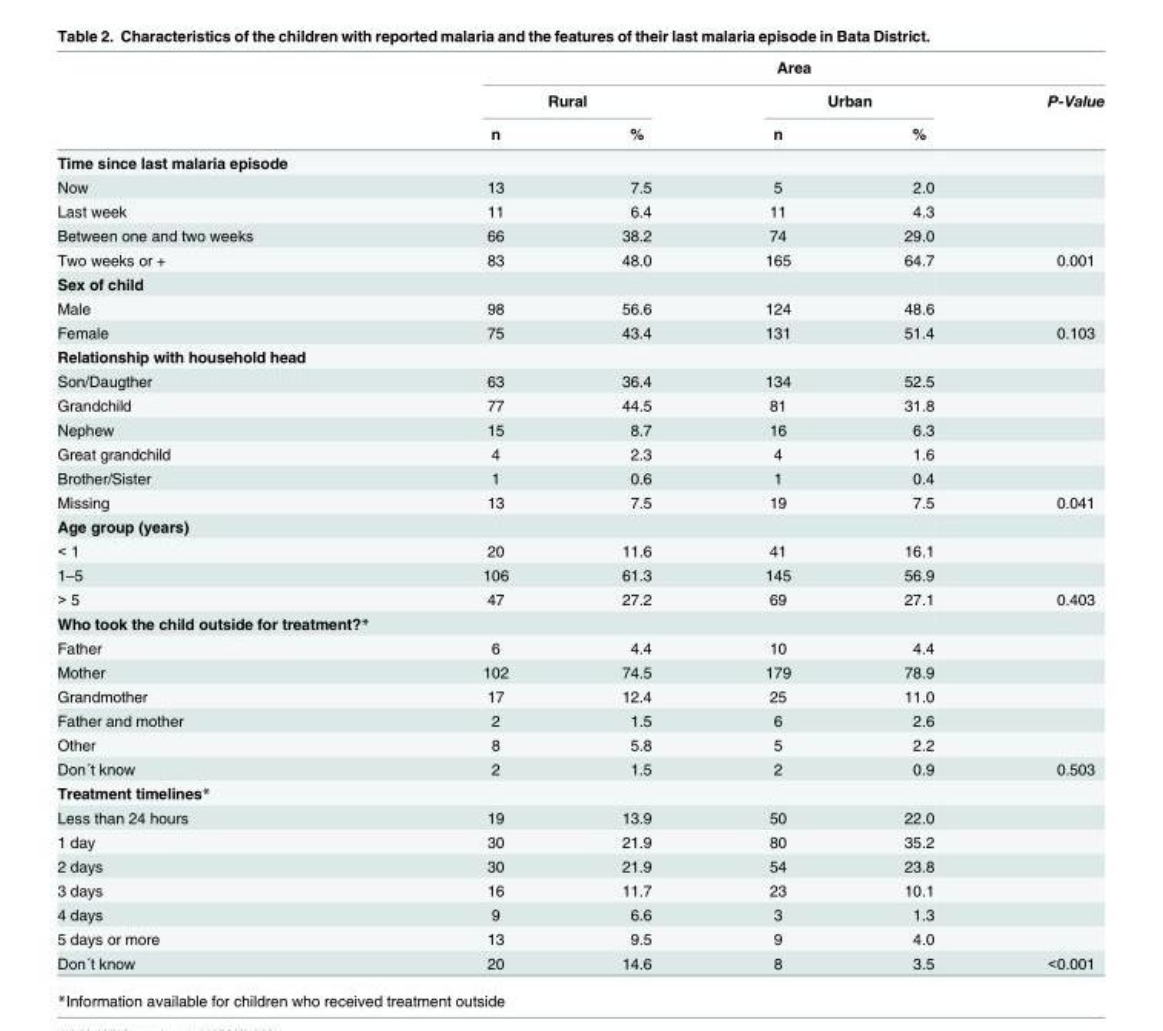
<table><thead><tr><td rowspan="3"></td><td colspan="5">Area</td></tr><tr><td colspan="2">Rural</td><td colspan="2">Urban</td><td rowspan="2">P-Value</td></tr><tr><td>n</td><td>%</td><td>n</td><td>%</td></tr></thead><tbody><tr><td colspan="6">Time since last malaria episode</td></tr><tr><td>Now</td><td>13</td><td>7.5</td><td>5</td><td>2.0</td><td></td></tr><tr><td>Last week</td><td>11</td><td>6.4</td><td>11</td><td>4.3</td><td></td></tr><tr><td>Between one and two weeks</td><td>66</td><td>38.2</td><td>74</td><td>29.0</td><td></td></tr><tr><td>Two weeks or +</td><td>83</td><td>48.0</td><td>165</td><td>64.7</td><td>0.001</td></tr><tr><td colspan="6">Sex of child</td></tr><tr><td>Male</td><td>98</td><td>56.6</td><td>124</td><td>48.6</td><td></td></tr><tr><td>Female</td><td>75</td><td>43.4</td><td>131</td><td>51.4</td><td>0.103</td></tr><tr><td colspan="6">Relationship with household head</td></tr><tr><td>Son/Daugther</td><td>63</td><td>36.4</td><td>134</td><td>52.5</td><td></td></tr><tr><td>Grandchild</td><td>77</td><td>44.5</td><td>81</td><td>31.8</td><td></td></tr><tr><td>Nephew</td><td>15</td><td>8.7</td><td>16</td><td>6.3</td><td></td></tr><tr><td>Great grandchild</td><td>4</td><td>2.3</td><td>4</td><td>1.6</td><td></td></tr><tr><td>Brother/Sister</td><td>1</td><td>0.6</td><td>1</td><td>0.4</td><td></td></tr><tr><td>Missing</td><td>13</td><td>7.5</td><td>19</td><td>7.5</td><td>0.041</td></tr><tr><td colspan="6">Age group (years)</td></tr><tr><td>&lt; 1</td><td>20</td><td>11.6</td><td>41</td><td>16.1</td><td></td></tr><tr><td>1–5</td><td>106</td><td>61.3</td><td>145</td><td>56.9</td><td></td></tr><tr><td>&gt; 5</td><td>47</td><td>27.2</td><td>69</td><td>27.1</td><td>0.403</td></tr><tr><td colspan="6">Who took the child outside for treatment?*</td></tr><tr><td>Father</td><td>6</td><td>4.4</td><td>10</td><td>4.4</td><td></td></tr><tr><td>Mother</td><td>102</td><td>74.5</td><td>179</td><td>78.9</td><td></td></tr><tr><td>Grandmother</td><td>17</td><td>12.4</td><td>25</td><td>11.0</td><td></td></tr><tr><td>Father and mother</td><td>2</td><td>1.5</td><td>6</td><td>2.6</td><td></td></tr><tr><td>Other</td><td>8</td><td>5.8</td><td>5</td><td>2.2</td><td></td></tr><tr><td>Don´t know</td><td>2</td><td>1.5</td><td>2</td><td>0.9</td><td>0.503</td></tr><tr><td colspan="6">Treatment timelines*</td></tr><tr><td>Less than 24 hours</td><td>19</td><td>13.9</td><td>50</td><td>22.0</td><td></td></tr><tr><td>1 day</td><td>30</td><td>21.9</td><td>80</td><td>35.2</td><td></td></tr><tr><td>2 days</td><td>30</td><td>21.9</td><td>54</td><td>23.8</td><td></td></tr><tr><td>3 days</td><td>16</td><td>11.7</td><td>23</td><td>10.1</td><td></td></tr><tr><td>4 days</td><td>9</td><td>6.6</td><td>3</td><td>1.3</td><td></td></tr><tr><td>5 days or more</td><td>13</td><td>9.5</td><td>9</td><td>4.0</td><td></td></tr><tr><td>Don´t know</td><td>20</td><td>14.6</td><td>8</td><td>3.5</td><td>&lt;0.001</td></tr></tbody></table>